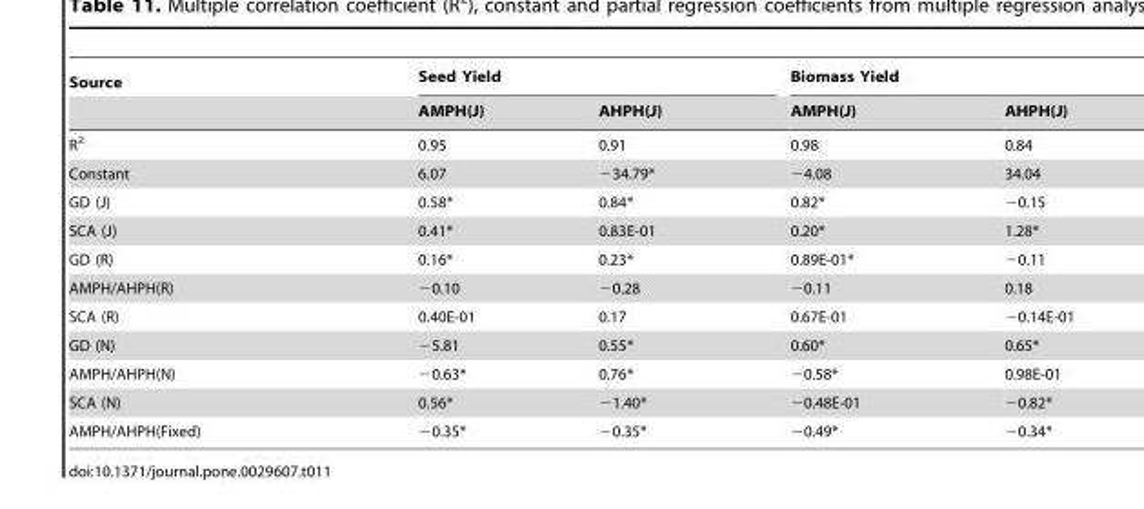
<table><thead><tr><td rowspan="2">Source</td><td colspan="2">Seed Yield</td><td colspan="2">Biomass Yield</td></tr><tr><td>AMPH(J)</td><td>AHPH(J)</td><td>AMPH(J)</td><td>AHPH(J)</td></tr></thead><tbody><tr><td>R<sup>2</sup></td><td>0.95</td><td>0.91</td><td>0.98</td><td>0.84</td></tr><tr><td>Constant</td><td>6.07</td><td>−34.79*</td><td>−4.08</td><td>34.04</td></tr><tr><td>GD (J)</td><td>0.58*</td><td>0.84*</td><td>0.82*</td><td>−0.15</td></tr><tr><td>SCA (J)</td><td>0.41*</td><td>0.83E-01</td><td>0.20*</td><td>1.28*</td></tr><tr><td>GD (R)</td><td>0.16*</td><td>0.23*</td><td>0.89E-01*</td><td>−0.11</td></tr><tr><td>AMPH/AHPH(R)</td><td>−0.10</td><td>−0.28</td><td>−0.11</td><td>0.18</td></tr><tr><td>SCA (R)</td><td>0.40E-01</td><td>0.17</td><td>0.67E-01</td><td>−0.14E-01</td></tr><tr><td>GD (N)</td><td>−5.81</td><td>0.55*</td><td>0.60*</td><td>0.65*</td></tr><tr><td>AMPH/AHPH(N)</td><td>−0.63*</td><td>0.76*</td><td>−0.58*</td><td>0.98E-01</td></tr><tr><td>SCA (N)</td><td>0.56*</td><td>−1.40*</td><td>−0.48E-01</td><td>−0.82*</td></tr><tr><td>AMPH/AHPH(Fixed)</td><td>−0.35*</td><td>−0.35*</td><td>−0.49*</td><td>−0.34*</td></tr></tbody></table>